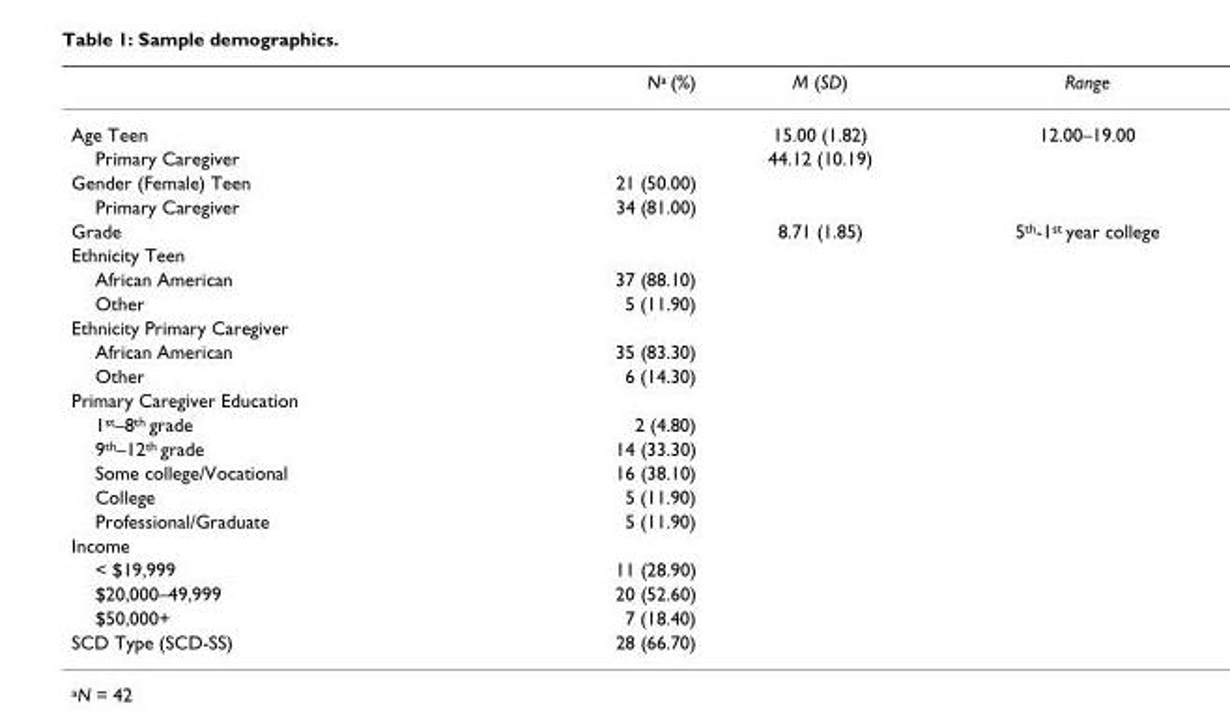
<table><thead><tr><td></td><td>N<sup>a</sup> (%)</td><td>M (SD)</td><td>Range</td></tr></thead><tbody><tr><td>Age Teen</td><td></td><td>15.00 (1.82)</td><td>12.00–19.00</td></tr><tr><td>Primary Caregiver</td><td></td><td>44.12 (10.19)</td><td></td></tr><tr><td>Gender (Female) Teen</td><td>21 (50.00)</td><td></td><td></td></tr><tr><td>Primary Caregiver</td><td>34 (81.00)</td><td></td><td></td></tr><tr><td>Grade</td><td></td><td>8.71 (1.85)</td><td>5<sup>th</sup>-1<sup>st</sup> year college</td></tr><tr><td colspan="4">Ethnicity Teen</td></tr><tr><td>African American</td><td>37 (88.10)</td><td></td><td></td></tr><tr><td>Other</td><td>5 (11.90)</td><td></td><td></td></tr><tr><td colspan="4">Ethnicity Primary Caregiver</td></tr><tr><td>African American</td><td>35 (83.30)</td><td></td><td></td></tr><tr><td>Other</td><td>6 (14.30)</td><td></td><td></td></tr><tr><td colspan="4">Primary Caregiver Education</td></tr><tr><td>1<sup>st</sup>–8<sup>th</sup> grade</td><td>2 (4.80)</td><td></td><td></td></tr><tr><td>9<sup>th</sup>–12<sup>th</sup> grade</td><td>14 (33.30)</td><td></td><td></td></tr><tr><td>Some college/Vocational</td><td>16 (38.10)</td><td></td><td></td></tr><tr><td>College</td><td>5 (11.90)</td><td></td><td></td></tr><tr><td>Professional/Graduate</td><td>5 (11.90)</td><td></td><td></td></tr><tr><td colspan="4">Income</td></tr><tr><td>&lt; $19,999</td><td>11 (28.90)</td><td></td><td></td></tr><tr><td>$20,000–49,999</td><td>20 (52.60)</td><td></td><td></td></tr><tr><td>$50,000+</td><td>7 (18.40)</td><td></td><td></td></tr><tr><td>SCD Type (SCD-SS)</td><td>28 (66.70)</td><td></td><td></td></tr></tbody></table>